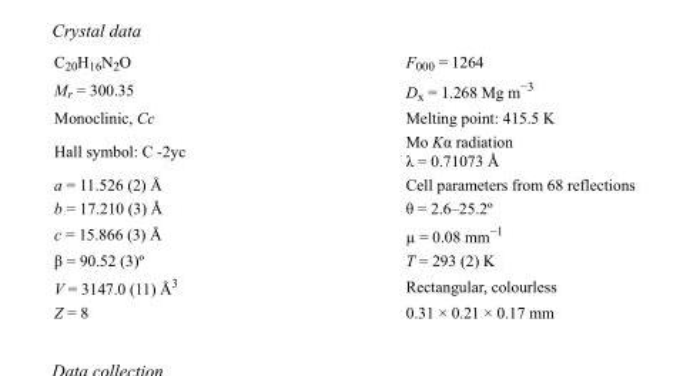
<table><tbody><tr><td>C<sub>20</sub>H<sub>16</sub>N<sub>2</sub>O</td><td>F<sub>000</sub> = 1264</td></tr><tr><td>M<sub>r</sub> = 300.35</td><td>D<sub>x</sub> = 1.268 Mg m<sup>−3</sup></td></tr><tr><td>Monoclinic, Cc</td><td>Melting point: 415.5 K</td></tr><tr><td>Hall symbol: C -2yc</td><td>Mo Kα radiation λ = 0.71073 Å</td></tr><tr><td>a = 11.526 (2) Å</td><td>Cell parameters from 68 reflections</td></tr><tr><td>b = 17.210 (3) Å</td><td>θ = 2.6–25.2º</td></tr><tr><td>c = 15.866 (3) Å</td><td>µ = 0.08 mm<sup>−1</sup></td></tr><tr><td>β = 90.52 (3)º</td><td>T = 293 (2) K</td></tr><tr><td>V = 3147.0 (11) Å<sup>3</sup></td><td>Rectangular, colourless</td></tr><tr><td>Z = 8</td><td>0.31 × 0.21 × 0.17 mm</td></tr></tbody></table>